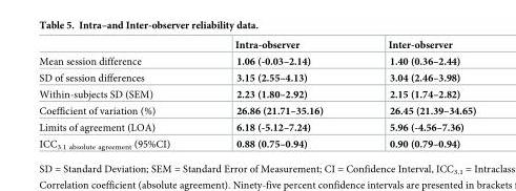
<table><thead><tr><td></td><td>Intra-observer</td><td>Inter-observer</td></tr></thead><tbody><tr><td>Mean session difference</td><td>1.06 (-0.03–2.14)</td><td>1.40 (0.36–2.44)</td></tr><tr><td>SD of session differences</td><td>3.15 (2.55–4.13)</td><td>3.04 (2.46–3.98)</td></tr><tr><td>Within-subjects SD (SEM)</td><td>2.23 (1.80–2.92)</td><td>2.15 (1.74–2.82)</td></tr><tr><td>Coefficient of variation (%)</td><td>26.86 (21.71–35.16)</td><td>26.45 (21.39–34.65)</td></tr><tr><td>Limits of agreement (LOA)</td><td>6.18 (-5.12–7.24)</td><td>5.96 (-4.56–7.36)</td></tr><tr><td>ICC<sub>3.1 absolute agreement</sub> (95%CI)</td><td>0.88 (0.75–0.94)</td><td>0.90 (0.79–0.94)</td></tr></tbody></table>